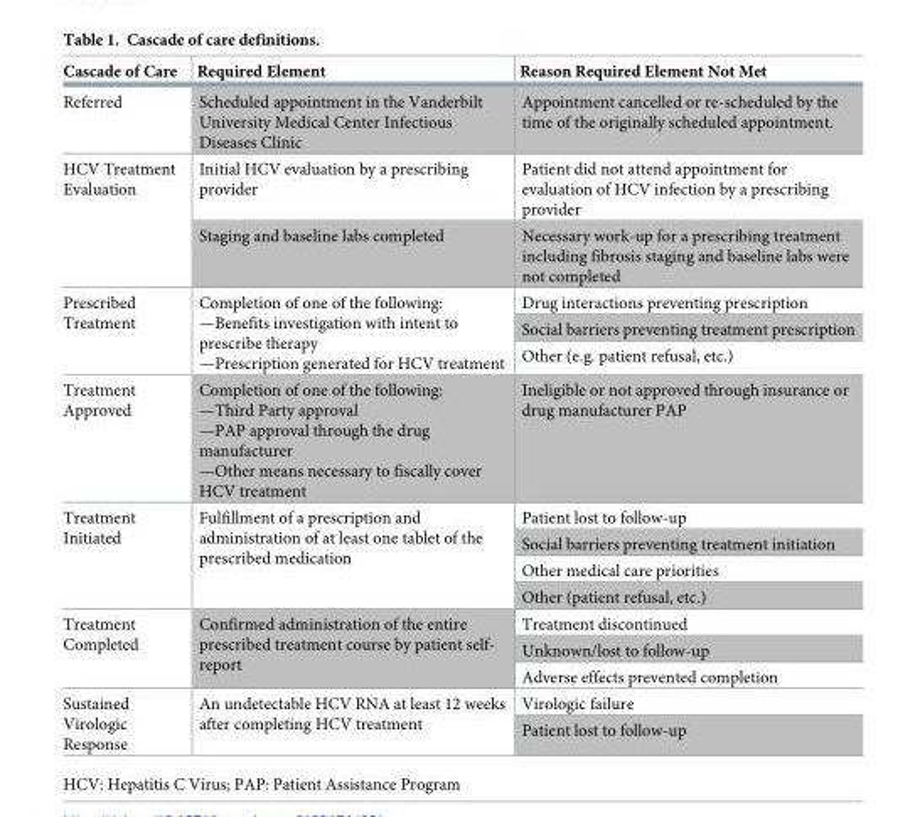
<table><thead><tr><td>Cascade of Care</td><td>Required Element</td><td>Reason Required Element Not Met</td></tr></thead><tbody><tr><td>Referred</td><td>Scheduled appointment in the Vanderbilt University Medical Center Infectious Diseases Clinic</td><td>Appointment cancelled or re-scheduled by the time of the originally scheduled appointment.</td></tr><tr><td rowspan="2">HCV Treatment Evaluation</td><td>Initial HCV evaluation by a prescribing provider</td><td>Patient did not attend appointment for evaluation of HCV infection by a prescribing provider</td></tr><tr><td>Staging and baseline labs completed</td><td>Necessary work-up for a prescribing treatment including fibrosis staging and baseline labs were not completed</td></tr><tr><td rowspan="3">Prescribed Treatment</td><td rowspan="3">Completion of one of the following: —Benefits investigation with intent to prescribe therapy —Prescription generated for HCV treatment</td><td>Drug interactions preventing prescription</td></tr><tr><td>Social barriers preventing treatment prescription</td></tr><tr><td>Other (e.g. patient refusal, etc.)</td></tr><tr><td>Treatment Approved</td><td>Completion of one of the following: —Third Party approval —PAP approval through the drug manufacturer —Other means necessary to fiscally cover HCV treatment</td><td>Ineligible or not approved through insurance or drug manufacturer PAP</td></tr><tr><td rowspan="4">Treatment Initiated</td><td rowspan="4">Fulfillment of a prescription and administration of at least one tablet of the prescribed medication</td><td>Patient lost to follow-up</td></tr><tr><td>Social barriers preventing treatment initiation</td></tr><tr><td>Other medical care priorities</td></tr><tr><td>Other (patient refusal, etc.)</td></tr><tr><td rowspan="3">Treatment Completed</td><td rowspan="3">Confirmed administration of the entire prescribed treatment course by patient self- report</td><td>Treatment discontinued</td></tr><tr><td>Unknown/lost to follow-up</td></tr><tr><td>Adverse effects prevented completion</td></tr><tr><td rowspan="2">Sustained Virologic Response</td><td rowspan="2">An undetectable HCV RNA at least 12 weeks after completing HCV treatment</td><td>Virologic failure</td></tr><tr><td>Patient lost to follow-up</td></tr></tbody></table>